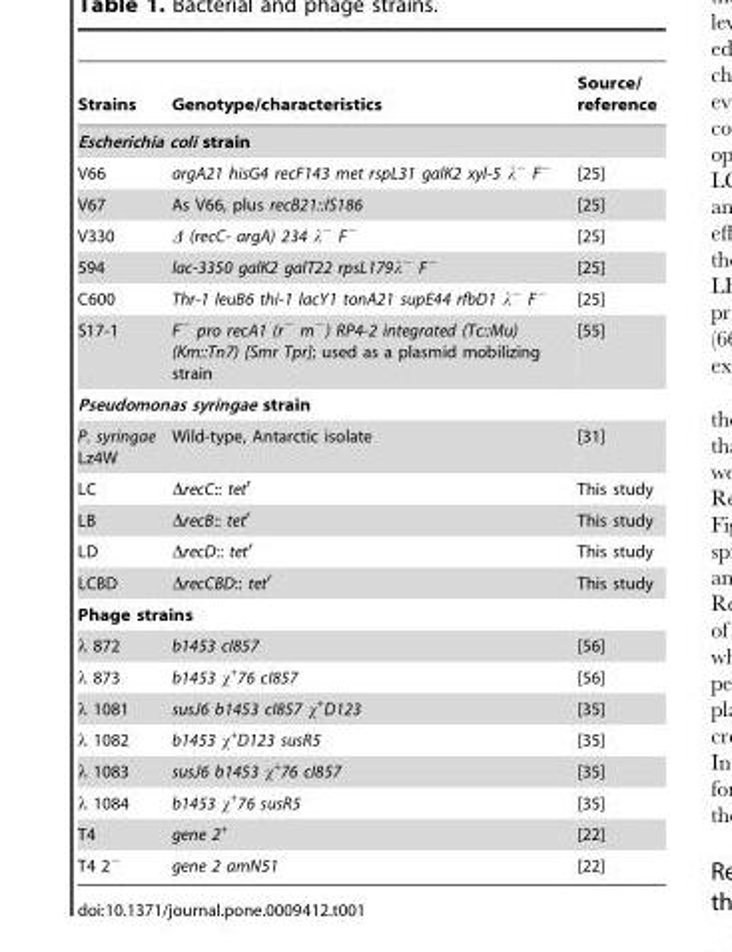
<table><thead><tr><td>Strains</td><td>Genotype/characteristics</td><td>Source/ reference</td></tr></thead><tbody><tr><td colspan="3">Escherichia coli strain</td></tr><tr><td>V66</td><td>argA21 hisG4 recF143 met rspL31 galK2 xyl-5 λ<sup>−</sup> F<sup>−</sup></td><td>[25]</td></tr><tr><td>V67</td><td>As V66, plus recB21::IS186</td><td>[25]</td></tr><tr><td>V330</td><td>Δ (recC- argA) 234 λ<sup>−</sup> F<sup>−</sup></td><td>[25]</td></tr><tr><td>594</td><td>lac-3350 galK2 galT22 rpsL179λ<sup>−</sup> F<sup>−</sup></td><td>[25]</td></tr><tr><td>C600</td><td>Thr-1 leuB6 thi-1 lacY1 tonA21 supE44 rfbD1 λ<sup>−</sup> F<sup>−</sup></td><td>[25]</td></tr><tr><td>S17-1</td><td>F<sup>−</sup> pro recA1 (r<sup>−</sup> m<sup>−</sup>) RP4-2 integrated (Tc::Mu) (Km::Tn7) [Smr Tpr]; used as a plasmid mobilizing strain</td><td>[55]</td></tr><tr><td colspan="3">Pseudomonas syringae strain</td></tr><tr><td>P. syringae Lz4W</td><td>Wild-type, Antarctic isolate</td><td>[31]</td></tr><tr><td>LC</td><td>ΔrecC:: tet<sup>r</sup></td><td>This study</td></tr><tr><td>LB</td><td>ΔrecB:: tet<sup>r</sup></td><td>This study</td></tr><tr><td>LD</td><td>ΔrecD:: tet<sup>r</sup></td><td>This study</td></tr><tr><td>LCBD</td><td>ΔrecCBD:: tet<sup>r</sup></td><td>This study</td></tr><tr><td colspan="3">Phage strains</td></tr><tr><td>λ 872</td><td>b1453 cI857</td><td>[56]</td></tr><tr><td>λ 873</td><td>b1453 χ<sup>+</sup>76 cI857</td><td>[56]</td></tr><tr><td>λ 1081</td><td>susJ6 b1453 cI857 χ<sup>+</sup>D123</td><td>[35]</td></tr><tr><td>λ 1082</td><td>b1453 χ<sup>+</sup>D123 susR5</td><td>[35]</td></tr><tr><td>λ 1083</td><td>susJ6 b1453 χ<sup>+</sup>76 cI857</td><td>[35]</td></tr><tr><td>λ 1084</td><td>b1453 χ<sup>+</sup>76 susR5</td><td>[35]</td></tr><tr><td>T4</td><td>gene 2<sup>+</sup></td><td>[22]</td></tr><tr><td>T4 2<sup>−</sup></td><td>gene 2 amN51</td><td>[22]</td></tr></tbody></table>